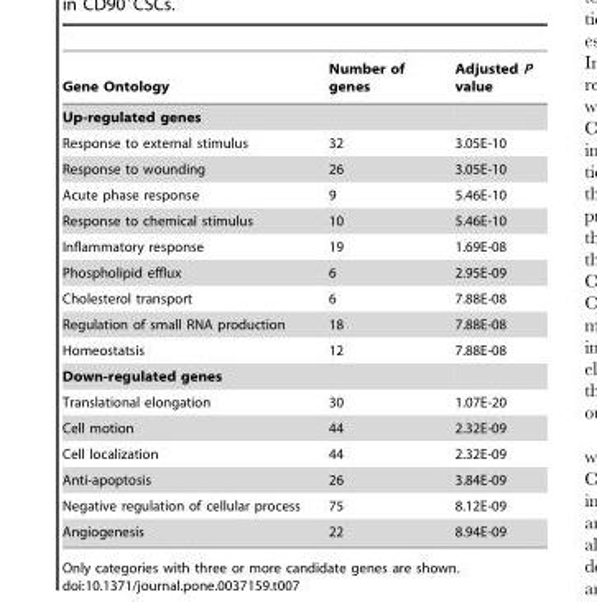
<table><thead><tr><td>Gene Ontology</td><td>Number of genes</td><td>Adjusted P value</td></tr></thead><tbody><tr><td colspan="3">Up-regulated genes</td></tr><tr><td>Response to external stimulus</td><td>32</td><td>3.05E-10</td></tr><tr><td>Response to wounding</td><td>26</td><td>3.05E-10</td></tr><tr><td>Acute phase response</td><td>9</td><td>5.46E-10</td></tr><tr><td>Response to chemical stimulus</td><td>10</td><td>5.46E-10</td></tr><tr><td>Inflammatory response</td><td>19</td><td>1.69E-08</td></tr><tr><td>Phospholipid efflux</td><td>6</td><td>2.95E-09</td></tr><tr><td>Cholesterol transport</td><td>6</td><td>7.88E-08</td></tr><tr><td>Regulation of small RNA production</td><td>18</td><td>7.88E-08</td></tr><tr><td>Homeostatsis</td><td>12</td><td>7.88E-08</td></tr><tr><td colspan="3">Down-regulated genes</td></tr><tr><td>Translational elongation</td><td>30</td><td>1.07E-20</td></tr><tr><td>Cell motion</td><td>44</td><td>2.32E-09</td></tr><tr><td>Cell localization</td><td>44</td><td>2.32E-09</td></tr><tr><td>Anti-apoptosis</td><td>26</td><td>3.84E-09</td></tr><tr><td>Negative regulation of cellular process</td><td>75</td><td>8.12E-09</td></tr><tr><td>Angiogenesis</td><td>22</td><td>8.94E-09</td></tr></tbody></table>